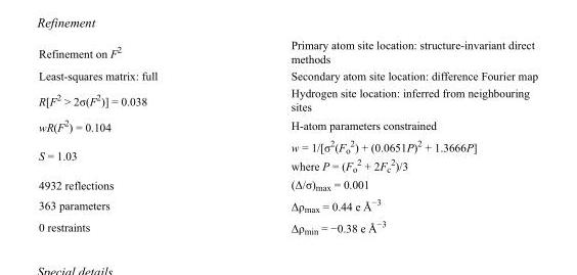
<table><tbody><tr><td>Refinement on F<sup>2</sup></td><td>Primary atom site location: structure-invariant direct methods</td></tr><tr><td>Least-squares matrix: full</td><td>Secondary atom site location: difference Fourier map</td></tr><tr><td>R[F<sup>2</sup> &gt; 2σ(F<sup>2</sup>)] = 0.038</td><td>Hydrogen site location: inferred from neighbouring sites</td></tr><tr><td>wR(F<sup>2</sup>) = 0.104</td><td>H-atom parameters constrained</td></tr><tr><td>S = 1.03</td><td>w = 1/[σ<sup>2</sup>(F<sub>o</sub> <sup>2</sup>) + (0.0651P)<sup>2</sup> + 1.3666P] where P = (F<sub>o</sub> <sup>2</sup> + 2F<sub>c</sub> <sup>2</sup>)/3</td></tr><tr><td>4932 reflections</td><td>(Δ/σ)<sub>max</sub> = 0.001</td></tr><tr><td>363 parameters</td><td>Δρ<sub>max</sub> = 0.44 e Å<sup>−3</sup></td></tr><tr><td>0 restraints</td><td>Δρ<sub>min</sub> = −0.38 e Å<sup>−3</sup></td></tr></tbody></table>